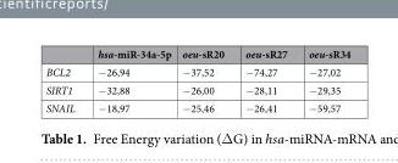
<table><thead><tr><td></td><td>hsa-miR-34a-5p</td><td>oeu-sR20</td><td>oeu-sR27</td><td>oeu-sR34</td></tr></thead><tbody><tr><td>BCL2</td><td>−26,94</td><td>−37,52</td><td>−74,27</td><td>−27,02</td></tr><tr><td>SIRT1</td><td>−32,88</td><td>−26,00</td><td>−28,11</td><td>−29,35</td></tr><tr><td>SNAIL</td><td>−18,97</td><td>−25,46</td><td>−26,41</td><td>−59,57</td></tr></tbody></table>